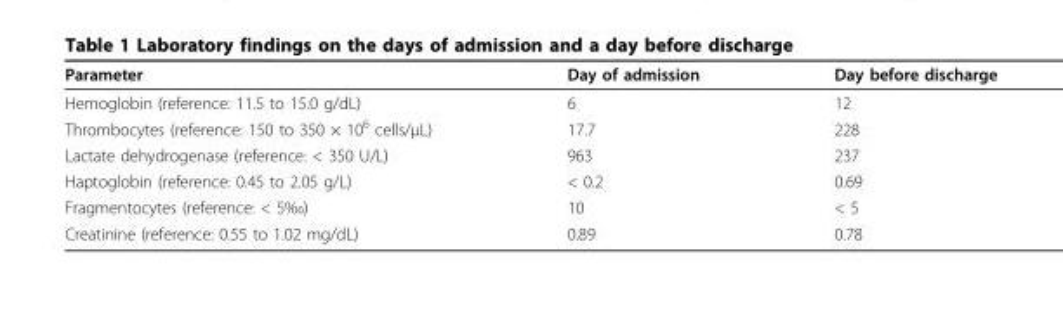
<table><thead><tr><td>Parameter</td><td>Day of admission</td><td>Day before discharge</td></tr></thead><tbody><tr><td>Hemoglobin (reference: 11.5 to 15.0 g/dL)</td><td>6</td><td>12</td></tr><tr><td>Thrombocytes (reference: 150 to 350 × 10<sup>6</sup> cells/μL)</td><td>17.7</td><td>228</td></tr><tr><td>Lactate dehydrogenase (reference: &lt; 350 U/L)</td><td>963</td><td>237</td></tr><tr><td>Haptoglobin (reference: 0.45 to 2.05 g/L)</td><td>&lt; 0.2</td><td>0.69</td></tr><tr><td>Fragmentocytes (reference: &lt; 5‰)</td><td>10</td><td>&lt; 5</td></tr><tr><td>Creatinine (reference: 0.55 to 1.02 mg/dL)</td><td>0.89</td><td>0.78</td></tr></tbody></table>